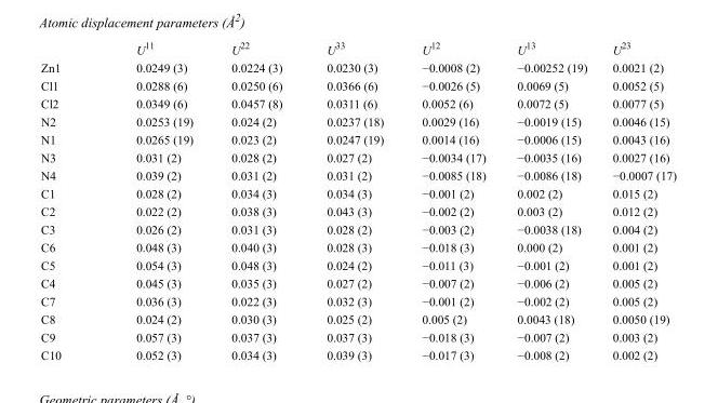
<table><thead><tr><td></td><td>U<sup>11</sup></td><td>U<sup>22</sup></td><td>U<sup>33</sup></td><td>U<sup>12</sup></td><td>U<sup>13</sup></td><td>U<sup>23</sup></td></tr></thead><tbody><tr><td>Zn1</td><td>0.0249 (3)</td><td>0.0224 (3)</td><td>0.0230 (3)</td><td>−0.0008 (2)</td><td>−0.00252 (19)</td><td>0.0021 (2)</td></tr><tr><td>Cl1</td><td>0.0288 (6)</td><td>0.0250 (6)</td><td>0.0366 (6)</td><td>−0.0026 (5)</td><td>0.0069 (5)</td><td>0.0052 (5)</td></tr><tr><td>Cl2</td><td>0.0349 (6)</td><td>0.0457 (8)</td><td>0.0311 (6)</td><td>0.0052 (6)</td><td>0.0072 (5)</td><td>0.0077 (5)</td></tr><tr><td>N2</td><td>0.0253 (19)</td><td>0.024 (2)</td><td>0.0237 (18)</td><td>0.0029 (16)</td><td>−0.0019 (15)</td><td>0.0046 (15)</td></tr><tr><td>N1</td><td>0.0265 (19)</td><td>0.023 (2)</td><td>0.0247 (19)</td><td>0.0014 (16)</td><td>−0.0006 (15)</td><td>0.0043 (16)</td></tr><tr><td>N3</td><td>0.031 (2)</td><td>0.028 (2)</td><td>0.027 (2)</td><td>−0.0034 (17)</td><td>−0.0035 (16)</td><td>0.0027 (16)</td></tr><tr><td>N4</td><td>0.039 (2)</td><td>0.031 (2)</td><td>0.031 (2)</td><td>−0.0085 (18)</td><td>−0.0086 (18)</td><td>−0.0007 (17)</td></tr><tr><td>C1</td><td>0.028 (2)</td><td>0.034 (3)</td><td>0.034 (3)</td><td>−0.001 (2)</td><td>0.002 (2)</td><td>0.015 (2)</td></tr><tr><td>C2</td><td>0.022 (2)</td><td>0.038 (3)</td><td>0.043 (3)</td><td>−0.002 (2)</td><td>0.003 (2)</td><td>0.012 (2)</td></tr><tr><td>C3</td><td>0.026 (2)</td><td>0.031 (3)</td><td>0.028 (2)</td><td>−0.003 (2)</td><td>−0.0038 (18)</td><td>0.004 (2)</td></tr><tr><td>C6</td><td>0.048 (3)</td><td>0.040 (3)</td><td>0.028 (3)</td><td>−0.018 (3)</td><td>0.000 (2)</td><td>0.001 (2)</td></tr><tr><td>C5</td><td>0.054 (3)</td><td>0.048 (3)</td><td>0.024 (2)</td><td>−0.011 (3)</td><td>−0.001 (2)</td><td>0.001 (2)</td></tr><tr><td>C4</td><td>0.045 (3)</td><td>0.035 (3)</td><td>0.027 (2)</td><td>−0.007 (2)</td><td>−0.006 (2)</td><td>0.005 (2)</td></tr><tr><td>C7</td><td>0.036 (3)</td><td>0.022 (3)</td><td>0.032 (3)</td><td>−0.001 (2)</td><td>−0.002 (2)</td><td>0.005 (2)</td></tr><tr><td>C8</td><td>0.024 (2)</td><td>0.030 (3)</td><td>0.025 (2)</td><td>0.005 (2)</td><td>0.0043 (18)</td><td>0.0050 (19)</td></tr><tr><td>C9</td><td>0.057 (3)</td><td>0.037 (3)</td><td>0.037 (3)</td><td>−0.018 (3)</td><td>−0.007 (2)</td><td>0.003 (2)</td></tr><tr><td>C10</td><td>0.052 (3)</td><td>0.034 (3)</td><td>0.039 (3)</td><td>−0.017 (3)</td><td>−0.008 (2)</td><td>0.002 (2)</td></tr></tbody></table>